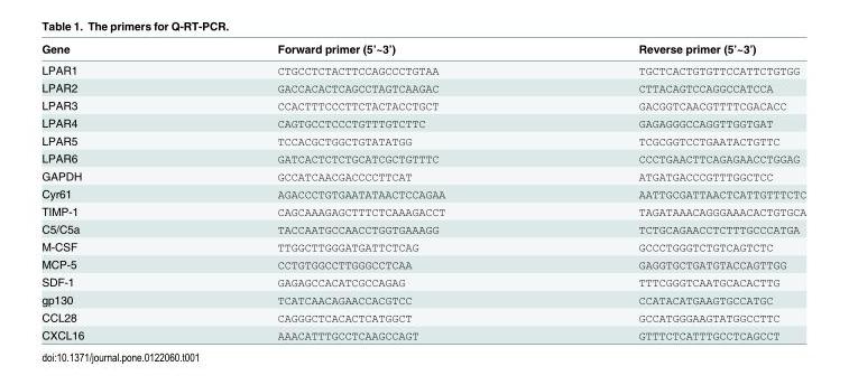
<table><thead><tr><td>Gene</td><td>Forward primer (5’~3’)</td><td>Reverse primer (5’~3’)</td></tr></thead><tbody><tr><td>LPAR1</td><td>CTGCCTCTACTTCCAGCCCTGTAA</td><td>TGCTCACTGTGTTCCATTCTGTGG</td></tr><tr><td>LPAR2</td><td>GACCACACTCAGCCTAGTCAAGAC</td><td>CTTACAGTCCAGGCCATCCA</td></tr><tr><td>LPAR3</td><td>CCACTTTCCCTTCTACTACCTGCT</td><td>GACGGTCAACGTTTTCGACACC</td></tr><tr><td>LPAR4</td><td>CAGTGCCTCCCTGTTTGTCTTC</td><td>GAGAGGGCCAGGTTGGTGAT</td></tr><tr><td>LPAR5</td><td>TCCACGCTGGCTGTATATGG</td><td>TCGCGGTCCTGAATACTGTTC</td></tr><tr><td>LPAR6</td><td>GATCACTCTCTGCATCGCTGTTTC</td><td>CCCTGAACTTCAGAGAACCTGGAG</td></tr><tr><td>GAPDH</td><td>GCCATCAACGACCCCTTCAT</td><td>ATGATGACCCGTTTGGCTCC</td></tr><tr><td>Cyr61</td><td>AGACCCTGTGAATATAACTCCAGAA</td><td>AATTGCGATTAACTCATTGTTTCTC</td></tr><tr><td>TIMP-1</td><td>CAGCAAAGAGCTTTCTCAAAGACCT</td><td>TAGATAAACAGGGAAACACTGTGCA</td></tr><tr><td>C5/C5a</td><td>TACCAATGCCAACCTGGTGAAAGG</td><td>TCTGCAGAACCTCTTTGCCCATGA</td></tr><tr><td>M-CSF</td><td>TTGGCTTGGGATGATTCTCAG</td><td>GCCCTGGGTCTGTCAGTCTC</td></tr><tr><td>MCP-5</td><td>CCTGTGGCCTTGGGCCTCAA</td><td>GAGGTGCTGATGTACCAGTTGG</td></tr><tr><td>SDF-1</td><td>GAGAGCCACATCGCCAGAG</td><td>TTTCGGGTCAATGCACACTTG</td></tr><tr><td>gp130</td><td>TCATCAACAGAACCACGTCC</td><td>CCATACATGAAGTGCCATGC</td></tr><tr><td>CCL28</td><td>CAGGGCTCACACTCATGGCT</td><td>GCCATGGGAAGTATGGCCTTC</td></tr><tr><td>CXCL16</td><td>AAACATTTGCCTCAAGCCAGT</td><td>GTTTCTCATTTGCCTCAGCCT</td></tr></tbody></table>